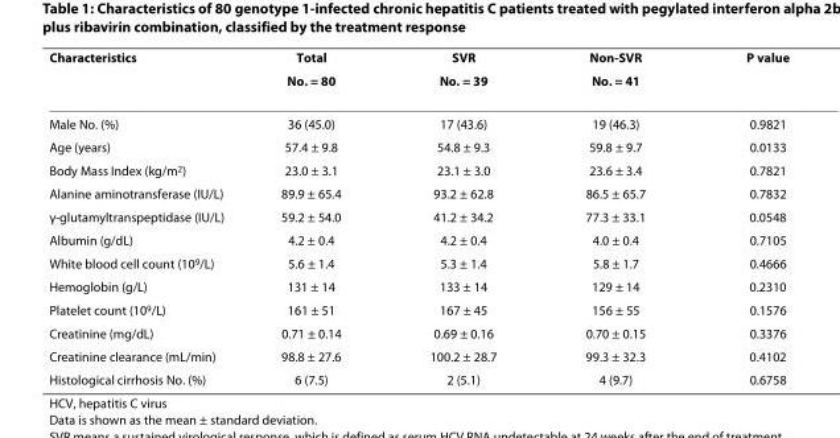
<table><thead><tr><td rowspan="2">Characteristics</td><td rowspan="2">Total No. = 80</td><td rowspan="2">SVR No. = 39</td><td rowspan="2">Non-SVR No. = 41</td><td rowspan="2">P value</td></tr><tr></tr></thead><tbody><tr><td>Male No. (%)</td><td>36 (45.0)</td><td>17 (43.6)</td><td>19 (46.3)</td><td>0.9821</td></tr><tr><td>Age (years)</td><td>57.4 ± 9.8</td><td>54.8 ± 9.3</td><td>59.8 ± 9.7</td><td>0.0133</td></tr><tr><td>Body Mass Index (kg/m<sup>2</sup>)</td><td>23.0 ± 3.1</td><td>23.1 ± 3.0</td><td>23.6 ± 3.4</td><td>0.7821</td></tr><tr><td>Alanine aminotransferase (IU/L)</td><td>89.9 ± 65.4</td><td>93.2 ± 62.8</td><td>86.5 ± 65.7</td><td>0.7832</td></tr><tr><td>γ-glutamyltranspeptidase (IU/L)</td><td>59.2 ± 54.0</td><td>41.2 ± 34.2</td><td>77.3 ± 33.1</td><td>0.0548</td></tr><tr><td>Albumin (g/dL)</td><td>4.2 ± 0.4</td><td>4.2 ± 0.4</td><td>4.0 ± 0.4</td><td>0.7105</td></tr><tr><td>White blood cell count (10<sup>9</sup>/L)</td><td>5.6 ± 1.4</td><td>5.3 ± 1.4</td><td>5.8 ± 1.7</td><td>0.4666</td></tr><tr><td>Hemoglobin (g/L)</td><td>131 ± 14</td><td>133 ± 14</td><td>129 ± 14</td><td>0.2310</td></tr><tr><td>Platelet count (10<sup>9</sup>/L)</td><td>161 ± 51</td><td>167 ± 45</td><td>156 ± 55</td><td>0.1576</td></tr><tr><td>Creatinine (mg/dL)</td><td>0.71 ± 0.14</td><td>0.69 ± 0.16</td><td>0.70 ± 0.15</td><td>0.3376</td></tr><tr><td>Creatinine clearance (mL/min)</td><td>98.8 ± 27.6</td><td>100.2 ± 28.7</td><td>99.3 ± 32.3</td><td>0.4102</td></tr><tr><td>Histological cirrhosis No. (%)</td><td>6 (7.5)</td><td>2 (5.1)</td><td>4 (9.7)</td><td>0.6758</td></tr></tbody></table>